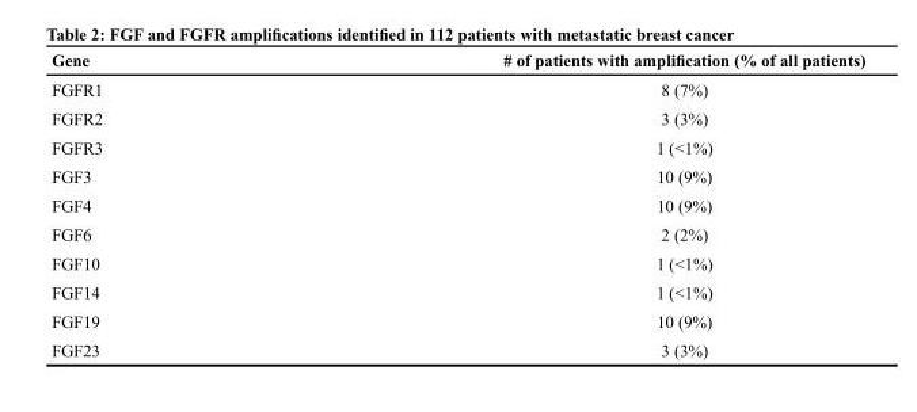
<table><thead><tr><td>Gene</td><td># of patients with amplification (% of all patients)</td></tr></thead><tbody><tr><td>FGFR1</td><td>8 (7%)</td></tr><tr><td>FGFR2</td><td>3 (3%)</td></tr><tr><td>FGFR3</td><td>1 (&lt;1%)</td></tr><tr><td>FGF3</td><td>10 (9%)</td></tr><tr><td>FGF4</td><td>10 (9%)</td></tr><tr><td>FGF6</td><td>2 (2%)</td></tr><tr><td>FGF10</td><td>1 (&lt;1%)</td></tr><tr><td>FGF14</td><td>1 (&lt;1%)</td></tr><tr><td>FGF19</td><td>10 (9%)</td></tr><tr><td>FGF23</td><td>3 (3%)</td></tr></tbody></table>